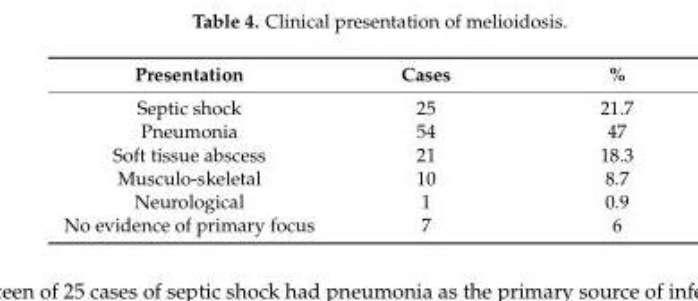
<table><thead><tr><td>Presentation</td><td>Cases</td><td>%</td></tr></thead><tbody><tr><td>Septic shock</td><td>25</td><td>21.7</td></tr><tr><td>Pneumonia</td><td>54</td><td>47</td></tr><tr><td>Soft tissue abscess</td><td>21</td><td>18.3</td></tr><tr><td>Musculo-skeletal</td><td>10</td><td>8.7</td></tr><tr><td>Neurological</td><td>1</td><td>0.9</td></tr><tr><td>No evidence of primary focus</td><td>7</td><td>6</td></tr></tbody></table>